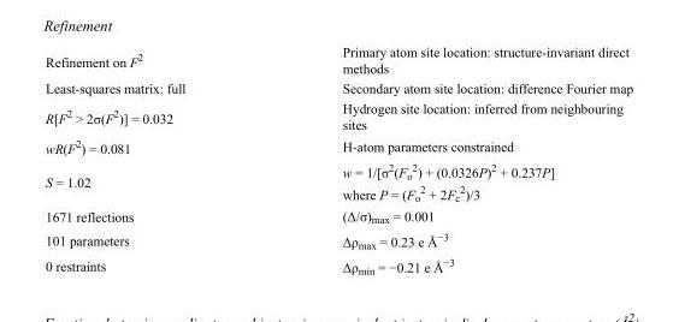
<table><tbody><tr><td>Refinement on F<sup>2</sup></td><td>Primary atom site location: structure-invariant direct methods</td></tr><tr><td>Least-squares matrix: full</td><td>Secondary atom site location: difference Fourier map</td></tr><tr><td>R[F<sup>2</sup> &gt; 2σ(F<sup>2</sup>)] = 0.032</td><td>Hydrogen site location: inferred from neighbouring sites</td></tr><tr><td>wR(F<sup>2</sup>) = 0.081</td><td>H-atom parameters constrained</td></tr><tr><td>S = 1.02</td><td>w = 1/[σ<sup>2</sup>(F<sub>o</sub> <sup>2</sup>) + (0.0326P)<sup>2</sup> + 0.237P] where P = (F<sub>o</sub> <sup>2</sup> + 2F<sub>c</sub> <sup>2</sup>)/3</td></tr><tr><td>1671 reflections</td><td>(Δ/σ)<sub>max</sub> = 0.001</td></tr><tr><td>101 parameters</td><td>Δρ<sub>max</sub> = 0.23 e Å<sup>−3</sup></td></tr><tr><td>0 restraints</td><td>Δρ<sub>min</sub> = −0.21 e Å<sup>−3</sup></td></tr></tbody></table>